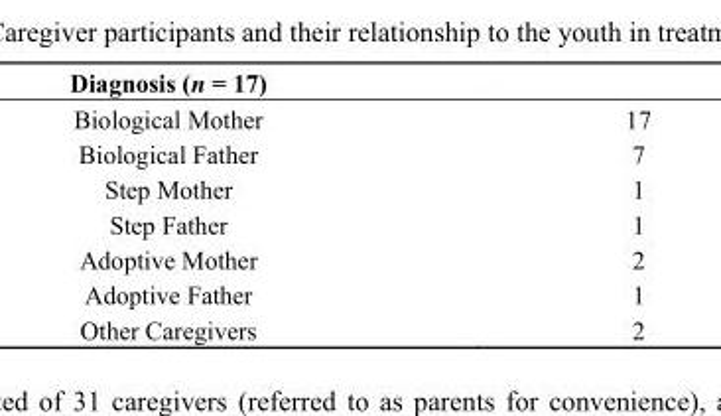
<table><thead><tr><td>Diagnosis (n = 17)</td><td></td></tr></thead><tbody><tr><td>Biological Mother</td><td>17</td></tr><tr><td>Biological Father</td><td>7</td></tr><tr><td>Step Mother</td><td>1</td></tr><tr><td>Step Father</td><td>1</td></tr><tr><td>Adoptive Mother</td><td>2</td></tr><tr><td>Adoptive Father</td><td>1</td></tr><tr><td>Other Caregivers</td><td>2</td></tr></tbody></table>